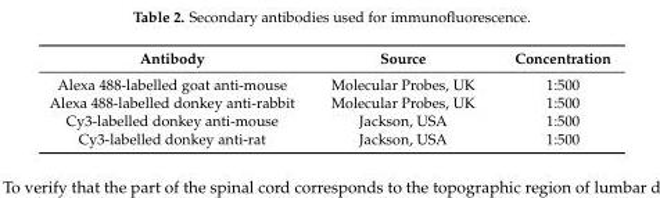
<table><thead><tr><td>Antibody</td><td>Source</td><td>Concentration</td></tr></thead><tbody><tr><td>Alexa 488-labelled goat anti-mouse</td><td>Molecular Probes, UK</td><td>1:500</td></tr><tr><td>Alexa 488-labelled donkey anti-rabbit</td><td>Molecular Probes, UK</td><td>1:500</td></tr><tr><td>Cy3-labelled donkey anti-mouse</td><td>Jackson, USA</td><td>1:500</td></tr><tr><td>Cy3-labelled donkey anti-rat</td><td>Jackson, USA</td><td>1:500</td></tr></tbody></table>